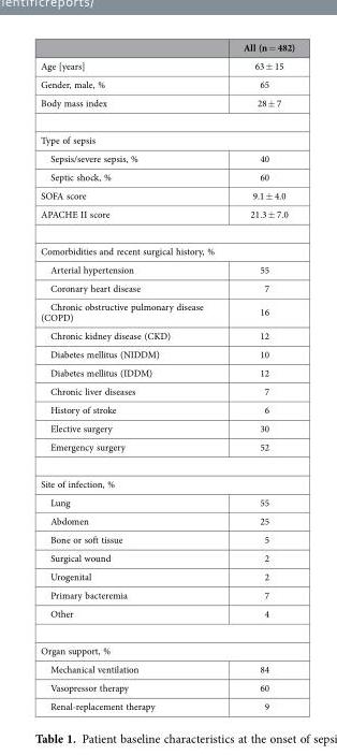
<table><thead><tr><td></td><td>All (n = 482)</td></tr></thead><tbody><tr><td>Age [years]</td><td>63 ± 15</td></tr><tr><td>Gender, male, %</td><td>65</td></tr><tr><td>Body mass index</td><td>28 ± 7</td></tr><tr><td colspan="2">Type of sepsis</td></tr><tr><td>Sepsis/severe sepsis, %</td><td>40</td></tr><tr><td>Septic shock, %</td><td>60</td></tr><tr><td>SOFA score</td><td>9.1 ± 4.0</td></tr><tr><td>APACHE II score</td><td>21.3 ± 7.0</td></tr><tr><td colspan="2">Comorbidities and recent surgical history, %</td></tr><tr><td>Arterial hypertension</td><td>55</td></tr><tr><td>Coronary heart disease</td><td>7</td></tr><tr><td>Chronic obstructive pulmonary disease (COPD)</td><td>16</td></tr><tr><td>Chronic kidney disease (CKD)</td><td>12</td></tr><tr><td>Diabetes mellitus (NIDDM)</td><td>10</td></tr><tr><td>Diabetes mellitus (IDDM)</td><td>12</td></tr><tr><td>Chronic liver diseases</td><td>7</td></tr><tr><td>History of stroke</td><td>6</td></tr><tr><td>Elective surgery</td><td>30</td></tr><tr><td>Emergency surgery</td><td>52</td></tr><tr><td colspan="2">Site of infection, %</td></tr><tr><td>Lung</td><td>55</td></tr><tr><td>Abdomen</td><td>25</td></tr><tr><td>Bone or soft tissue</td><td>5</td></tr><tr><td>Surgical wound</td><td>2</td></tr><tr><td>Urogenital</td><td>2</td></tr><tr><td>Primary bacteremia</td><td>7</td></tr><tr><td>Other</td><td>4</td></tr><tr><td colspan="2">Organ support, %</td></tr><tr><td>Mechanical ventilation</td><td>84</td></tr><tr><td>Vasopressor therapy</td><td>60</td></tr><tr><td>Renal-replacement therapy</td><td>9</td></tr></tbody></table>